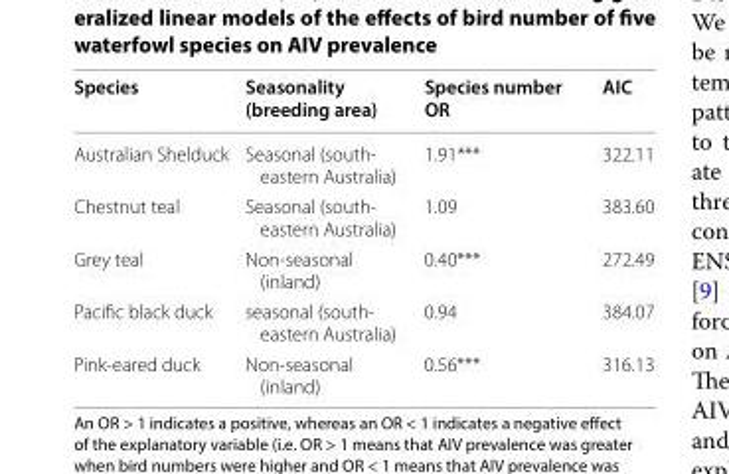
<table><thead><tr><td>Species</td><td>Seasonality (breeding area)</td><td>Species number OR</td><td>AIC</td></tr></thead><tbody><tr><td>Australian Shelduck</td><td>Seasonal (south- eastern Australia)</td><td>1.91***</td><td>322.11</td></tr><tr><td>Chestnut teal</td><td>Seasonal (south- eastern Australia)</td><td>1.09</td><td>383.60</td></tr><tr><td>Grey teal</td><td>Non-seasonal (inland)</td><td>0.40***</td><td>272.49</td></tr><tr><td>Pacific black duck</td><td>seasonal (south- eastern Australia)</td><td>0.94</td><td>384.07</td></tr><tr><td>Pink-eared duck</td><td>Non-seasonal (inland)</td><td>0.56***</td><td>316.13</td></tr></tbody></table>